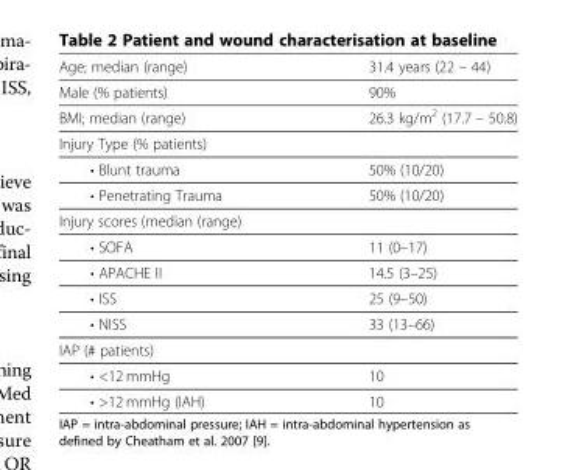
<table><tbody><tr><td>Age; median (range)</td><td>31.4 years (22 – 44)</td></tr><tr><td>Male (% patients)</td><td>90%</td></tr><tr><td>BMI; median (range)</td><td>26.3 kg/m<sup>2</sup> (17.7 – 50.8)</td></tr><tr><td colspan="2">Injury Type (% patients)</td></tr><tr><td>• Blunt trauma</td><td>50% (10/20)</td></tr><tr><td>• Penetrating Trauma</td><td>50% (10/20)</td></tr><tr><td colspan="2">Injury scores (median (range)</td></tr><tr><td>• SOFA</td><td>11 (0–17)</td></tr><tr><td>• APACHE II</td><td>14.5 (3–25)</td></tr><tr><td>• ISS</td><td>25 (9–50)</td></tr><tr><td>• NISS</td><td>33 (13–66)</td></tr><tr><td colspan="2">IAP (# patients)</td></tr><tr><td>• &lt;12 mmHg</td><td>10</td></tr><tr><td>• &gt;12 mmHg (IAH)</td><td>10</td></tr></tbody></table>